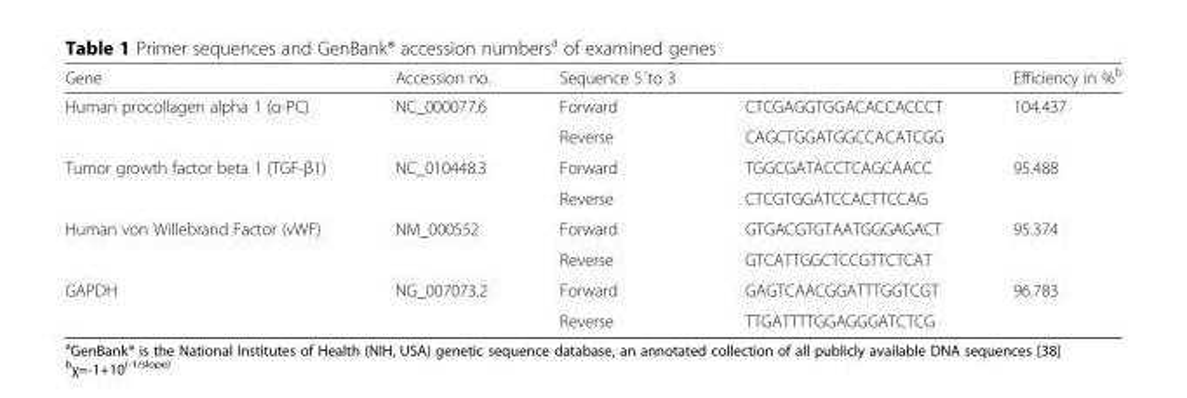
<table><thead><tr><td>Gene</td><td>Accession no.</td><td>Sequence 5´to 3</td><td></td><td>Efficiency in %<sup>b</sup></td></tr></thead><tbody><tr><td rowspan="2">Human procollagen alpha 1 (α-PC)</td><td>NC_000077.6</td><td>Forward</td><td>CTCGAGGTGGACACCACCCT</td><td>104.437</td></tr><tr><td></td><td>Reverse</td><td>CAGCTGGATGGCCACATCGG</td><td></td></tr><tr><td rowspan="2">Tumor growth factor beta 1 (TGF-β1)</td><td>NC_010448.3</td><td>Forward</td><td>TGGCGATACCTCAGCAACC</td><td>95.488</td></tr><tr><td></td><td>Reverse</td><td>CTCGTGGATCCACTTCCAG</td><td></td></tr><tr><td rowspan="2">Human von Willebrand Factor (vWF)</td><td>NM_000552</td><td>Forward</td><td>GTGACGTGTAATGGGAGACT</td><td>95.374</td></tr><tr><td></td><td>Reverse</td><td>GTCATTGGCTCCGTTCTCAT</td><td></td></tr><tr><td rowspan="2">GAPDH</td><td>NG_007073.2</td><td>Forward</td><td>GAGTCAACGGATTTGGTCGT</td><td>96.783</td></tr><tr><td></td><td>Reverse</td><td>TTGATTTTGGAGGGATCTCG</td><td></td></tr></tbody></table>